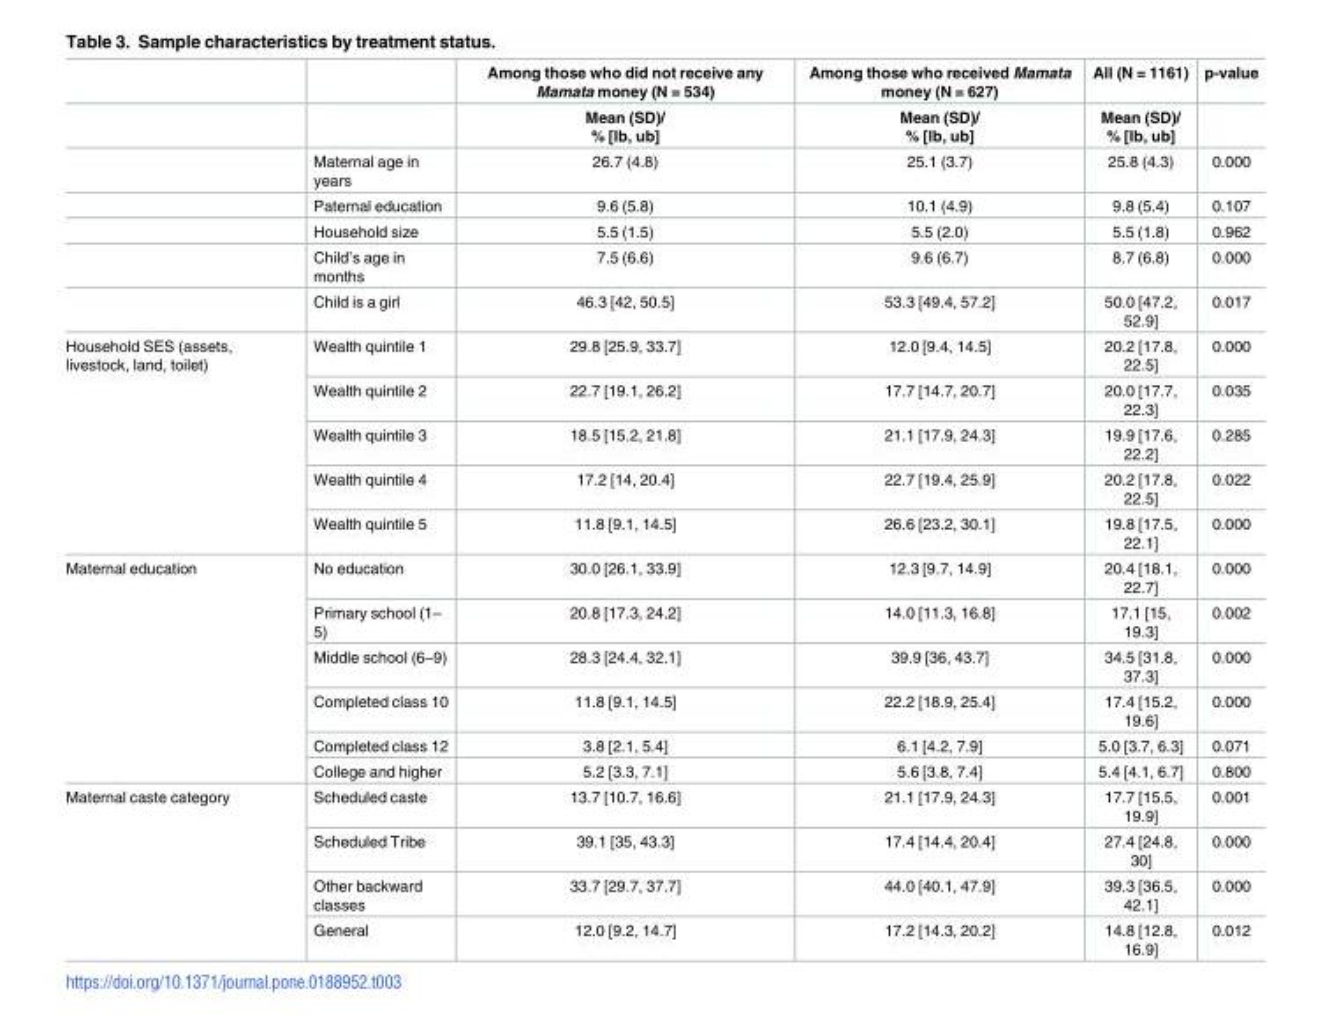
<table><thead><tr><td rowspan="2"></td><td rowspan="2"></td><td rowspan="2">Among those who did not receive any Mamata money (N = 534) Mean (SD)/ % [lb, ub]</td><td rowspan="2">Among those who received Mamata money (N = 627) Mean (SD)/ % [lb, ub]</td><td rowspan="2">All (N = 1161) Mean (SD)/ % [lb, ub]</td><td rowspan="2">p-value</td></tr><tr></tr></thead><tbody><tr><td></td><td>Maternal age in years</td><td>26.7 (4.8)</td><td>25.1 (3.7)</td><td>25.8 (4.3)</td><td>0.000</td></tr><tr><td></td><td>Paternal education</td><td>9.6 (5.8)</td><td>10.1 (4.9)</td><td>9.8 (5.4)</td><td>0.107</td></tr><tr><td></td><td>Household size</td><td>5.5 (1.5)</td><td>5.5 (2.0)</td><td>5.5 (1.8)</td><td>0.962</td></tr><tr><td></td><td>Child’s age in months</td><td>7.5 (6.6)</td><td>9.6 (6.7)</td><td>8.7 (6.8)</td><td>0.000</td></tr><tr><td></td><td>Child is a girl</td><td>46.3 [42, 50.5]</td><td>53.3 [49.4, 57.2]</td><td>50.0 [47.2, 52.9]</td><td>0.017</td></tr><tr><td rowspan="5">Household SES (assets, livestock, land, toilet)</td><td>Wealth quintile 1</td><td>29.8 [25.9, 33.7]</td><td>12.0 [9.4, 14.5]</td><td>20.2 [17.8, 22.5]</td><td>0.000</td></tr><tr><td>Wealth quintile 2</td><td>22.7 [19.1, 26.2]</td><td>17.7 [14.7, 20.7]</td><td>20.0 [17.7, 22.3]</td><td>0.035</td></tr><tr><td>Wealth quintile 3</td><td>18.5 [15.2, 21.8]</td><td>21.1 [17.9, 24.3]</td><td>19.9 [17.6, 22.2]</td><td>0.285</td></tr><tr><td>Wealth quintile 4</td><td>17.2 [14, 20.4]</td><td>22.7 [19.4, 25.9]</td><td>20.2 [17.8, 22.5]</td><td>0.022</td></tr><tr><td>Wealth quintile 5</td><td>11.8 [9.1, 14.5]</td><td>26.6 [23.2, 30.1]</td><td>19.8 [17.5, 22.1]</td><td>0.000</td></tr><tr><td rowspan="6">Maternal education</td><td>No education</td><td>30.0 [26.1, 33.9]</td><td>12.3 [9.7, 14.9]</td><td>20.4 [18.1, 22.7]</td><td>0.000</td></tr><tr><td>Primary school (1– 5)</td><td>20.8 [17.3, 24.2]</td><td>14.0 [11.3, 16.8]</td><td>17.1 [15, 19.3]</td><td>0.002</td></tr><tr><td>Middle school (6–9)</td><td>28.3 [24.4, 32.1]</td><td>39.9 [36, 43.7]</td><td>34.5 [31.8, 37.3]</td><td>0.000</td></tr><tr><td>Completed class 10</td><td>11.8 [9.1, 14.5]</td><td>22.2 [18.9, 25.4]</td><td>17.4 [15.2, 19.6]</td><td>0.000</td></tr><tr><td>Completed class 12</td><td>3.8 [2.1, 5.4]</td><td>6.1 [4.2, 7.9]</td><td>5.0 [3.7, 6.3]</td><td>0.071</td></tr><tr><td>College and higher</td><td>5.2 [3.3, 7.1]</td><td>5.6 [3.8, 7.4]</td><td>5.4 [4.1, 6.7]</td><td>0.800</td></tr><tr><td rowspan="4">Maternal caste category</td><td>Scheduled caste</td><td>13.7 [10.7, 16.6]</td><td>21.1 [17.9, 24.3]</td><td>17.7 [15.5, 19.9]</td><td>0.001</td></tr><tr><td>Scheduled Tribe</td><td>39.1 [35, 43.3]</td><td>17.4 [14.4, 20.4]</td><td>27.4 [24.8, 30]</td><td>0.000</td></tr><tr><td>Other backward classes</td><td>33.7 [29.7, 37.7]</td><td>44.0 [40.1, 47.9]</td><td>39.3 [36.5, 42.1]</td><td>0.000</td></tr><tr><td>General</td><td>12.0 [9.2, 14.7]</td><td>17.2 [14.3, 20.2]</td><td>14.8 [12.8, 16.9]</td><td>0.012</td></tr></tbody></table>